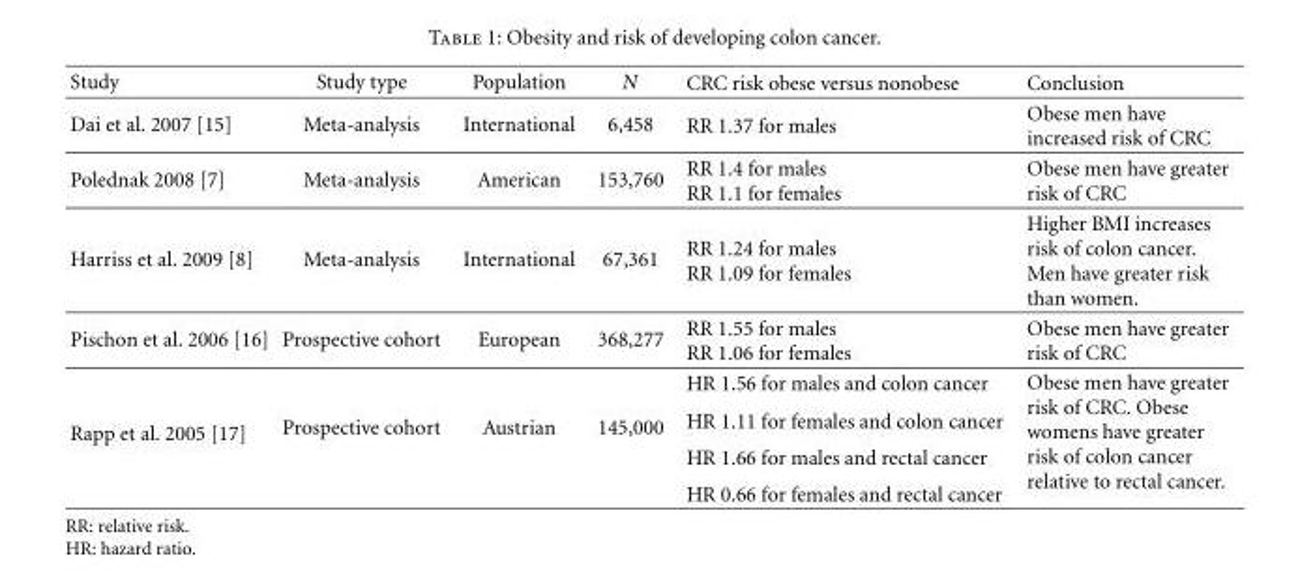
<table><thead><tr><td>Study</td><td>Study type</td><td>Population</td><td>N</td><td>CRC risk obese versus nonobese</td><td>Conclusion</td></tr></thead><tbody><tr><td>Dai et al. 2007 [15]</td><td>Meta-analysis</td><td>International</td><td>6,458</td><td>RR 1.37 for males</td><td>Obese men have increased risk of CRC</td></tr><tr><td>Polednak 2008 [7]</td><td>Meta-analysis</td><td>American</td><td>153,760</td><td>RR 1.4 for males RR 1.1 for females</td><td>Obese men have greater risk of CRC</td></tr><tr><td>Harriss et al. 2009 [8]</td><td>Meta-analysis</td><td>International</td><td>67,361</td><td>RR 1.24 for males RR 1.09 for females</td><td>Higher BMI increases risk of colon cancer. Men have greater risk than women.</td></tr><tr><td>Pischon et al. 2006 [16]</td><td>Prospective cohort</td><td>European</td><td>368,277</td><td>RR 1.55 for males RR 1.06 for females</td><td>Obese men have greater risk of CRC</td></tr><tr><td rowspan="4">Rapp et al. 2005 [17]</td><td rowspan="4">Prospective cohort</td><td rowspan="4">Austrian</td><td rowspan="4">145,000</td><td>HR 1.56 for males and colon cancer</td><td rowspan="4">Obese men have greater risk of CRC. Obese womens have greater risk of colon cancer relative to rectal cancer.</td></tr><tr><td>HR 1.11 for females and colon cancer</td></tr><tr><td>HR 1.66 for males and rectal cancer</td></tr><tr><td>HR 0.66 for females and rectal cancer</td></tr></tbody></table>